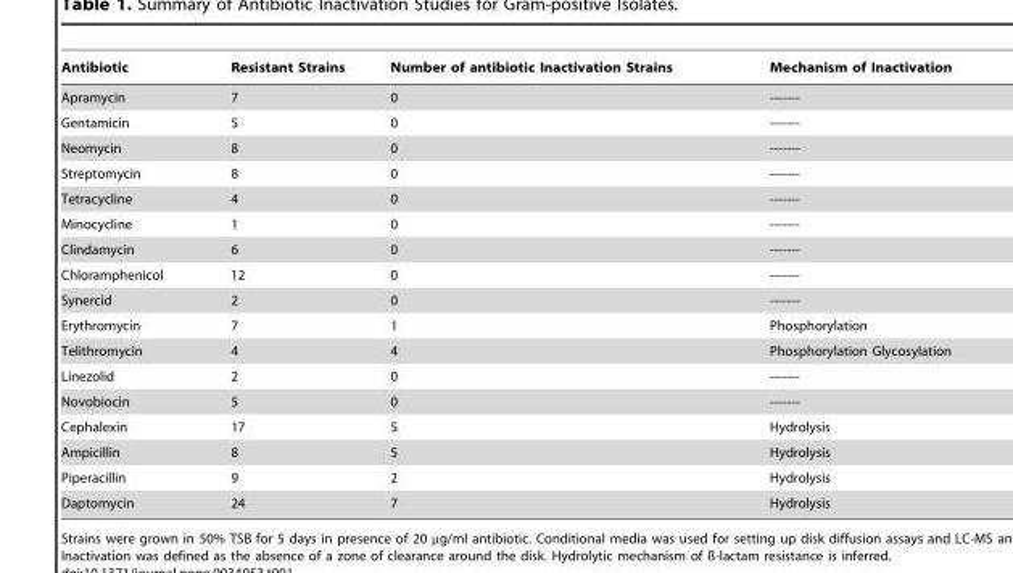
<table><thead><tr><td>Antibiotic</td><td>Resistant Strains</td><td>Number of antibiotic Inactivation Strains</td><td>Mechanism of Inactivation</td></tr></thead><tbody><tr><td>Apramycin</td><td>7</td><td>0</td><td>-------</td></tr><tr><td>Gentamicin</td><td>5</td><td>0</td><td>-------</td></tr><tr><td>Neomycin</td><td>8</td><td>0</td><td>-------</td></tr><tr><td>Streptomycin</td><td>8</td><td>0</td><td>-------</td></tr><tr><td>Tetracycline</td><td>4</td><td>0</td><td>-------</td></tr><tr><td>Minocycline</td><td>1</td><td>0</td><td>-------</td></tr><tr><td>Clindamycin</td><td>6</td><td>0</td><td>-------</td></tr><tr><td>Chloramphenicol</td><td>12</td><td>0</td><td>-------</td></tr><tr><td>Synercid</td><td>2</td><td>0</td><td>-------</td></tr><tr><td>Erythromycin</td><td>7</td><td>1</td><td>Phosphorylation</td></tr><tr><td>Telithromycin</td><td>4</td><td>4</td><td>Phosphorylation Glycosylation</td></tr><tr><td>Linezolid</td><td>2</td><td>0</td><td>-------</td></tr><tr><td>Novobiocin</td><td>5</td><td>0</td><td>-------</td></tr><tr><td>Cephalexin</td><td>17</td><td>5</td><td>Hydrolysis</td></tr><tr><td>Ampicillin</td><td>8</td><td>5</td><td>Hydrolysis</td></tr><tr><td>Piperacillin</td><td>9</td><td>2</td><td>Hydrolysis</td></tr><tr><td>Daptomycin</td><td>24</td><td>7</td><td>Hydrolysis</td></tr></tbody></table>